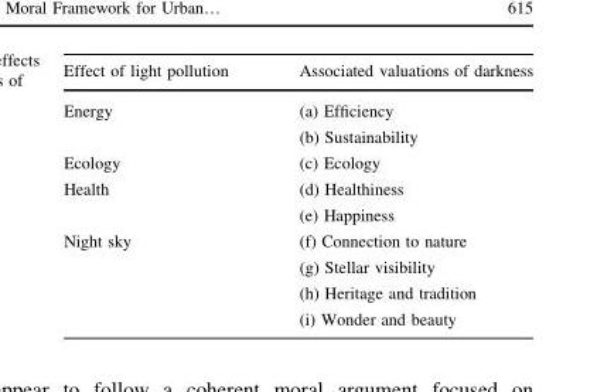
<table><thead><tr><td>Effect of light pollution</td><td>Associated valuations of darkness</td></tr></thead><tbody><tr><td rowspan="2">Energy</td><td>(a) Efficiency</td></tr><tr><td>(b) Sustainability</td></tr><tr><td>Ecology</td><td>(c) Ecology</td></tr><tr><td rowspan="2">Health</td><td>(d) Healthiness</td></tr><tr><td>(e) Happiness</td></tr><tr><td rowspan="4">Night sky</td><td>(f) Connection to nature</td></tr><tr><td>(g) Stellar visibility</td></tr><tr><td>(h) Heritage and tradition</td></tr><tr><td>(i) Wonder and beauty</td></tr></tbody></table>